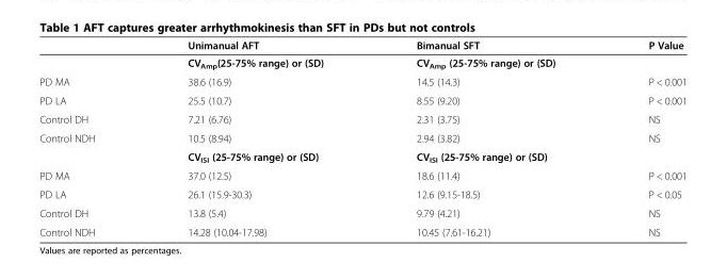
<table><thead><tr><td></td><td>Unimanual AFT</td><td>Bimanual SFT</td><td>P Value</td></tr></thead><tbody><tr><td></td><td>CV<sub>Amp</sub>(25-75% range) or (SD)</td><td>CV<sub>Amp</sub> (25-75% range) or (SD)</td><td></td></tr><tr><td>PD MA</td><td>38.6 (16.9)</td><td>14.5 (14.3)</td><td>P &lt; 0.001</td></tr><tr><td>PD LA</td><td>25.5 (10.7)</td><td>8.55 (9.20)</td><td>P &lt; 0.001</td></tr><tr><td>Control DH</td><td>7.21 (6.76)</td><td>2.31 (3.75)</td><td>NS</td></tr><tr><td rowspan="2">Control NDH</td><td>10.5 (8.94)</td><td>2.94 (3.82)</td><td>NS</td></tr><tr><td>CV<sub>ISI</sub> (25-75% range) or (SD)</td><td>CV<sub>ISI</sub> (25-75% range) or (SD)</td><td></td></tr><tr><td>PD MA</td><td>37.0 (12.5)</td><td>18.6 (11.4)</td><td>P &lt; 0.001</td></tr><tr><td>PD LA</td><td>26.1 (15.9-30.3)</td><td>12.6 (9.15-18.5)</td><td>P &lt; 0.05</td></tr><tr><td>Control DH</td><td>13.8 (5.4)</td><td>9.79 (4.21)</td><td>NS</td></tr><tr><td>Control NDH</td><td>14.28 (10.04-17.98)</td><td>10.45 (7.61-16.21)</td><td>NS</td></tr></tbody></table>